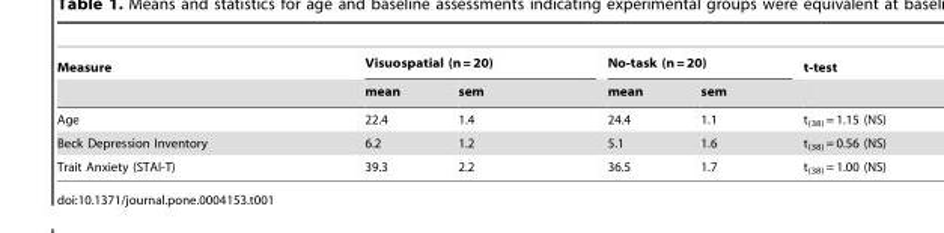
<table><thead><tr><td rowspan="2">Measure</td><td colspan="2">Visuospatial (n = 20)</td><td colspan="2">No-task (n = 20)</td><td rowspan="2">t-test</td></tr><tr><td>mean</td><td>sem</td><td>mean</td><td>sem</td></tr></thead><tbody><tr><td>Age</td><td>22.4</td><td>1.4</td><td>24.4</td><td>1.1</td><td>t<sub>(38)</sub> = 1.15 (NS)</td></tr><tr><td>Beck Depression Inventory</td><td>6.2</td><td>1.2</td><td>5.1</td><td>1.6</td><td>t<sub>(38)</sub> = 0.56 (NS)</td></tr><tr><td>Trait Anxiety (STAI-T)</td><td>39.3</td><td>2.2</td><td>36.5</td><td>1.7</td><td>t<sub>(38)</sub> = 1.00 (NS)</td></tr></tbody></table>